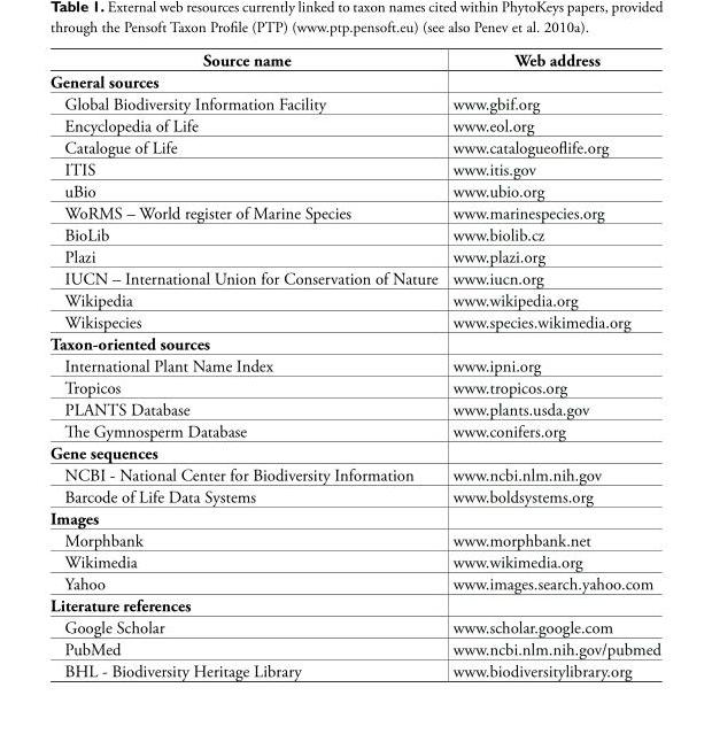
<table><thead><tr><td>Source name</td><td>Web address</td></tr></thead><tbody><tr><td colspan="2">General sources</td></tr><tr><td>Global Biodiversity Information Facility</td><td>www.gbif.org</td></tr><tr><td>Encyclopedia of Life</td><td>www.eol.org</td></tr><tr><td>Catalogue of Life</td><td>www.catalogueoflife.org</td></tr><tr><td>ITIS</td><td>www.itis.gov</td></tr><tr><td>uBio</td><td>www.ubio.org</td></tr><tr><td>WoRMS – World register of Marine Species</td><td>www.marinespecies.org</td></tr><tr><td>BioLib</td><td>www.biolib.cz</td></tr><tr><td>Plazi</td><td>www.plazi.org</td></tr><tr><td>IUCN – International Union for Conservation of Nature</td><td>www.iucn.org</td></tr><tr><td>Wikipedia</td><td>www.wikipedia.org</td></tr><tr><td>Wikispecies</td><td>www.species.wikimedia.org</td></tr><tr><td colspan="2">Taxon-oriented sources</td></tr><tr><td>International Plant Name Index</td><td>www.ipni.org</td></tr><tr><td>Tropicos</td><td>www.tropicos.org</td></tr><tr><td>PLANTS Database</td><td>www.plants.usda.gov</td></tr><tr><td>The Gymnosperm Database</td><td>www.conifers.org</td></tr><tr><td colspan="2">Gene sequences</td></tr><tr><td>NCBI - National Center for Biodiversity Information</td><td>www.ncbi.nlm.nih.gov</td></tr><tr><td>Barcode of Life Data Systems</td><td>www.boldsystems.org</td></tr><tr><td colspan="2">Images</td></tr><tr><td>Morphbank</td><td>www.morphbank.net</td></tr><tr><td>Wikimedia</td><td>www.wikimedia.org</td></tr><tr><td>Yahoo</td><td>www.images.search.yahoo.com</td></tr><tr><td colspan="2">Literature references</td></tr><tr><td>Google Scholar</td><td>www.scholar.google.com</td></tr><tr><td>PubMed</td><td>www.ncbi.nlm.nih.gov/pubmed</td></tr><tr><td>BHL - Biodiversity Heritage Library</td><td>www.biodiversitylibrary.org</td></tr></tbody></table>